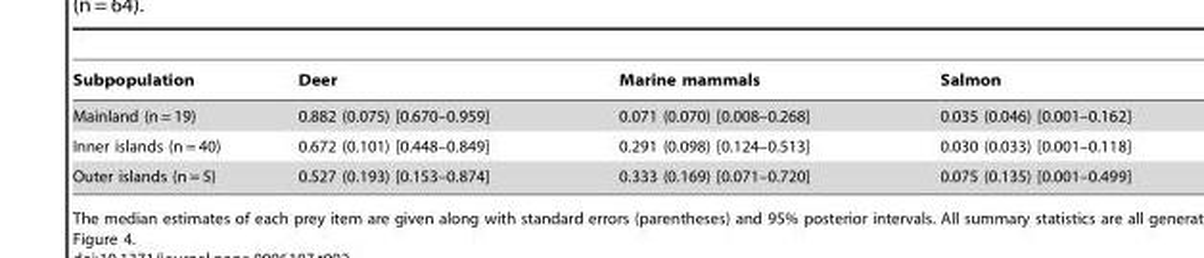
<table><thead><tr><td>Subpopulation</td><td>Deer</td><td>Marine mammals</td><td>Salmon</td></tr></thead><tbody><tr><td>Mainland (n = 19)</td><td>0.882 (0.075) [0.670–0.959]</td><td>0.071 (0.070) [0.008–0.268]</td><td>0.035 (0.046) [0.001–0.162]</td></tr><tr><td>Inner islands (n = 40)</td><td>0.672 (0.101) [0.448–0.849]</td><td>0.291 (0.098) [0.124–0.513]</td><td>0.030 (0.033) [0.001–0.118]</td></tr><tr><td>Outer islands (n = 5)</td><td>0.527 (0.193) [0.153–0.874]</td><td>0.333 (0.169) [0.071–0.720]</td><td>0.075 (0.135) [0.001–0.499]</td></tr></tbody></table>